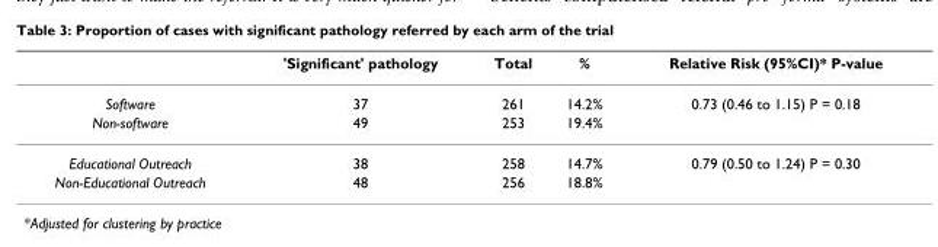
<table><thead><tr><td></td><td>&#x27;Significant&#x27; pathology</td><td>Total</td><td>%</td><td>Relative Risk (95%CI)* P-value</td></tr></thead><tbody><tr><td>Software</td><td>37</td><td>261</td><td>14.2%</td><td>0.73 (0.46 to 1.15) P = 0.18</td></tr><tr><td>Non-software</td><td>49</td><td>253</td><td>19.4%</td><td></td></tr><tr><td>Educational Outreach</td><td>38</td><td>258</td><td>14.7%</td><td>0.79 (0.50 to 1.24) P = 0.30</td></tr><tr><td>Non-Educational Outreach</td><td>48</td><td>256</td><td>18.8%</td><td></td></tr></tbody></table>